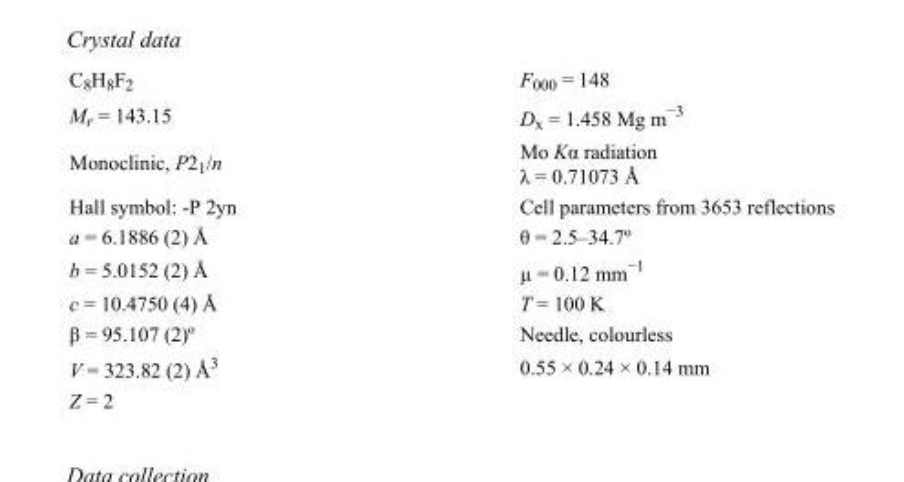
<table><tbody><tr><td>C<sub>8</sub>H<sub>8</sub>F<sub>2</sub></td><td>F000 = 148</td></tr><tr><td>M<sub>r</sub> = 143.15</td><td>D<sub>x</sub> = 1.458 Mg m<sup>−3</sup></td></tr><tr><td>Monoclinic, P2<sub>1</sub>/n</td><td>Mo Kα radiation λ = 0.71073 Å</td></tr><tr><td>Hall symbol: -P 2yn</td><td>Cell parameters from 3653 reflections</td></tr><tr><td>a = 6.1886 (2) Å</td><td>θ = 2.5–34.7º</td></tr><tr><td>b = 5.0152 (2) Å</td><td>µ = 0.12 mm<sup>−1</sup></td></tr><tr><td>c = 10.4750 (4) Å</td><td>T = 100 K</td></tr><tr><td>β = 95.107 (2)º</td><td>Needle, colourless</td></tr><tr><td>V = 323.82 (2) Å<sup>3</sup></td><td>0.55 × 0.24 × 0.14 mm</td></tr><tr><td>Z = 2</td><td></td></tr></tbody></table>